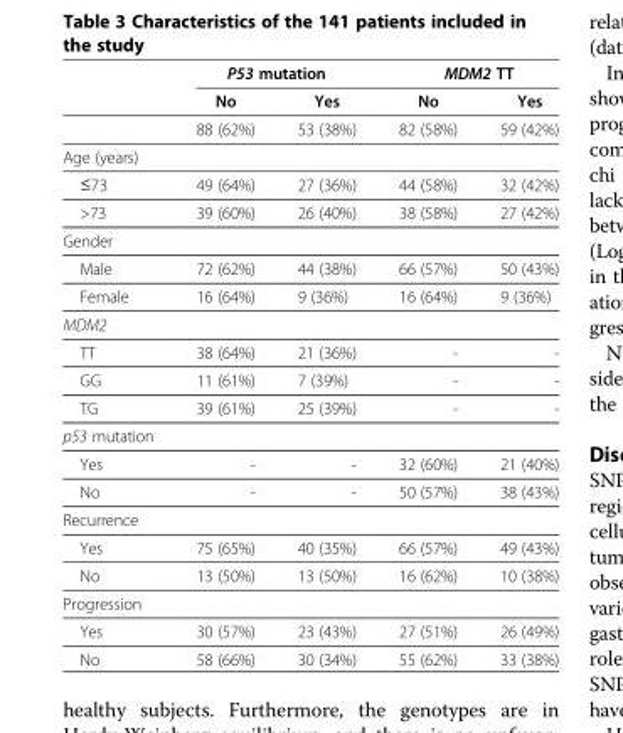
<table><thead><tr><td rowspan="2"></td><td colspan="2">P53 mutation</td><td colspan="2">MDM2 TT</td></tr><tr><td>No</td><td>Yes</td><td>No</td><td>Yes</td></tr></thead><tbody><tr><td></td><td>88 (62%)</td><td>53 (38%)</td><td>82 (58%)</td><td>59 (42%)</td></tr><tr><td colspan="5">Age (years)</td></tr><tr><td>≤73</td><td>49 (64%)</td><td>27 (36%)</td><td>44 (58%)</td><td>32 (42%)</td></tr><tr><td>&gt;73</td><td>39 (60%)</td><td>26 (40%)</td><td>38 (58%)</td><td>27 (42%)</td></tr><tr><td colspan="5">Gender</td></tr><tr><td>Male</td><td>72 (62%)</td><td>44 (38%)</td><td>66 (57%)</td><td>50 (43%)</td></tr><tr><td>Female</td><td>16 (64%)</td><td>9 (36%)</td><td>16 (64%)</td><td>9 (36%)</td></tr><tr><td colspan="5">MDM2</td></tr><tr><td>TT</td><td>38 (64%)</td><td>21 (36%)</td><td>-</td><td>-</td></tr><tr><td>GG</td><td>11 (61%)</td><td>7 (39%)</td><td>-</td><td>-</td></tr><tr><td>TG</td><td>39 (61%)</td><td>25 (39%)</td><td>-</td><td>-</td></tr><tr><td colspan="5">p53 mutation</td></tr><tr><td>Yes</td><td>-</td><td>-</td><td>32 (60%)</td><td>21 (40%)</td></tr><tr><td>No</td><td>-</td><td>-</td><td>50 (57%)</td><td>38 (43%)</td></tr><tr><td colspan="5">Recurrence</td></tr><tr><td>Yes</td><td>75 (65%)</td><td>40 (35%)</td><td>66 (57%)</td><td>49 (43%)</td></tr><tr><td>No</td><td>13 (50%)</td><td>13 (50%)</td><td>16 (62%)</td><td>10 (38%)</td></tr><tr><td colspan="5">Progression</td></tr><tr><td>Yes</td><td>30 (57%)</td><td>23 (43%)</td><td>27 (51%)</td><td>26 (49%)</td></tr><tr><td>No</td><td>58 (66%)</td><td>30 (34%)</td><td>55 (62%)</td><td>33 (38%)</td></tr></tbody></table>